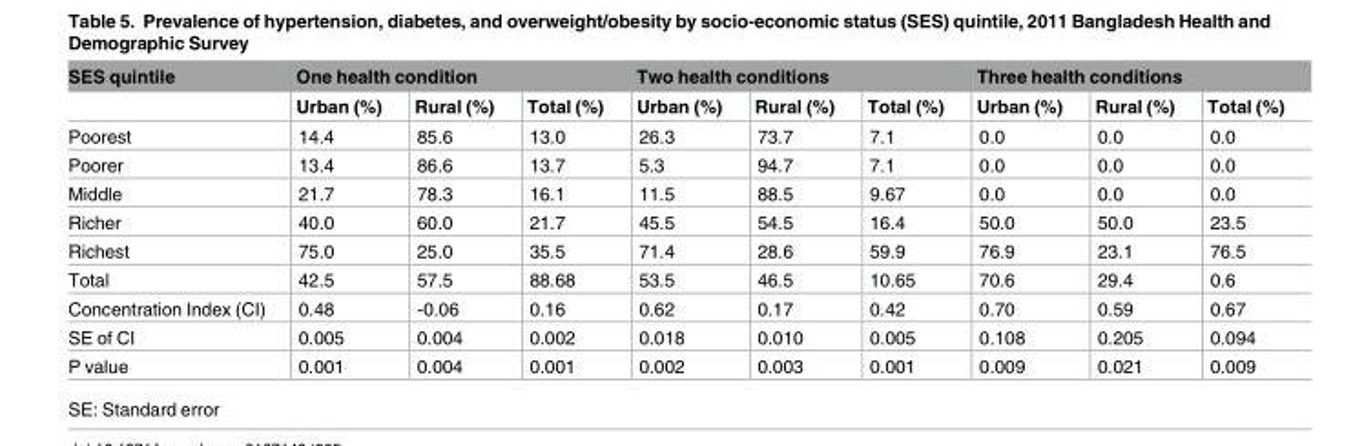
<table><thead><tr><td rowspan="2">SES quintile</td><td colspan="3">One health condition</td><td colspan="3">Two health conditions</td><td colspan="3">Three health conditions</td></tr><tr><td>Urban (%)</td><td>Rural (%)</td><td>Total (%)</td><td>Urban (%)</td><td>Rural (%)</td><td>Total (%)</td><td>Urban (%)</td><td>Rural (%)</td><td>Total (%)</td></tr></thead><tbody><tr><td>Poorest</td><td>14.4</td><td>85.6</td><td>13.0</td><td>26.3</td><td>73.7</td><td>7.1</td><td>0.0</td><td>0.0</td><td>0.0</td></tr><tr><td>Poorer</td><td>13.4</td><td>86.6</td><td>13.7</td><td>5.3</td><td>94.7</td><td>7.1</td><td>0.0</td><td>0.0</td><td>0.0</td></tr><tr><td>Middle</td><td>21.7</td><td>78.3</td><td>16.1</td><td>11.5</td><td>88.5</td><td>9.67</td><td>0.0</td><td>0.0</td><td>0.0</td></tr><tr><td>Richer</td><td>40.0</td><td>60.0</td><td>21.7</td><td>45.5</td><td>54.5</td><td>16.4</td><td>50.0</td><td>50.0</td><td>23.5</td></tr><tr><td>Richest</td><td>75.0</td><td>25.0</td><td>35.5</td><td>71.4</td><td>28.6</td><td>59.9</td><td>76.9</td><td>23.1</td><td>76.5</td></tr><tr><td>Total</td><td>42.5</td><td>57.5</td><td>88.68</td><td>53.5</td><td>46.5</td><td>10.65</td><td>70.6</td><td>29.4</td><td>0.6</td></tr><tr><td>Concentration Index (CI)</td><td>0.48</td><td>-0.06</td><td>0.16</td><td>0.62</td><td>0.17</td><td>0.42</td><td>0.70</td><td>0.59</td><td>0.67</td></tr><tr><td>SE of CI</td><td>0.005</td><td>0.004</td><td>0.002</td><td>0.018</td><td>0.010</td><td>0.005</td><td>0.108</td><td>0.205</td><td>0.094</td></tr><tr><td>P value</td><td>0.001</td><td>0.004</td><td>0.001</td><td>0.002</td><td>0.003</td><td>0.001</td><td>0.009</td><td>0.021</td><td>0.009</td></tr></tbody></table>